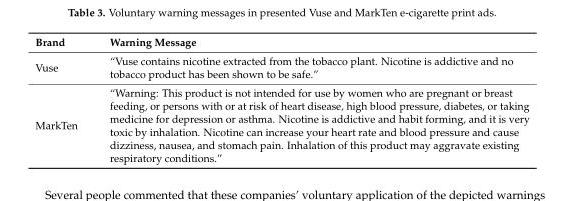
<table><thead><tr><td>Brand</td><td>Warning Message</td></tr></thead><tbody><tr><td>Vuse</td><td>“Vuse contains nicotine extracted from the tobacco plant. Nicotine is addictive and no tobacco product has been shown to be safe.”</td></tr><tr><td>MarkTen</td><td>“Warning: This product is not intended for use by women who are pregnant or breast feeding, or persons with or at risk of heart disease, high blood pressure, diabetes, or taking medicine for depression or asthma. Nicotine is addictive and habit forming, and it is very toxic by inhalation. Nicotine can increase your heart rate and blood pressure and cause dizziness, nausea, and stomach pain. Inhalation of this product may aggravate existing respiratory conditions.”</td></tr></tbody></table>